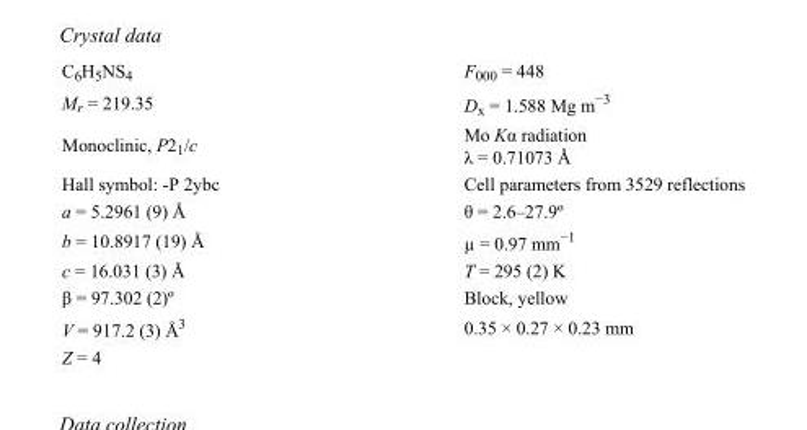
<table><tbody><tr><td>C<sub>6</sub>H<sub>5</sub>NS<sub>4</sub></td><td>F000 = 448</td></tr><tr><td>M<sub>r</sub> = 219.35</td><td>D<sub>x</sub> = 1.588 Mg m<sup>−3</sup></td></tr><tr><td>Monoclinic, P2<sub>1</sub>/c</td><td>Mo Kα radiation λ = 0.71073 Å</td></tr><tr><td>Hall symbol: -P 2ybc</td><td>Cell parameters from 3529 reflections</td></tr><tr><td>a = 5.2961 (9) Å</td><td>θ = 2.6–27.9º</td></tr><tr><td>b = 10.8917 (19) Å</td><td>µ = 0.97 mm<sup>−1</sup></td></tr><tr><td>c = 16.031 (3) Å</td><td>T = 295 (2) K</td></tr><tr><td>β = 97.302 (2)º</td><td>Block, yellow</td></tr><tr><td>V = 917.2 (3) Å<sup>3</sup></td><td>0.35 × 0.27 × 0.23 mm</td></tr><tr><td>Z = 4</td><td></td></tr></tbody></table>